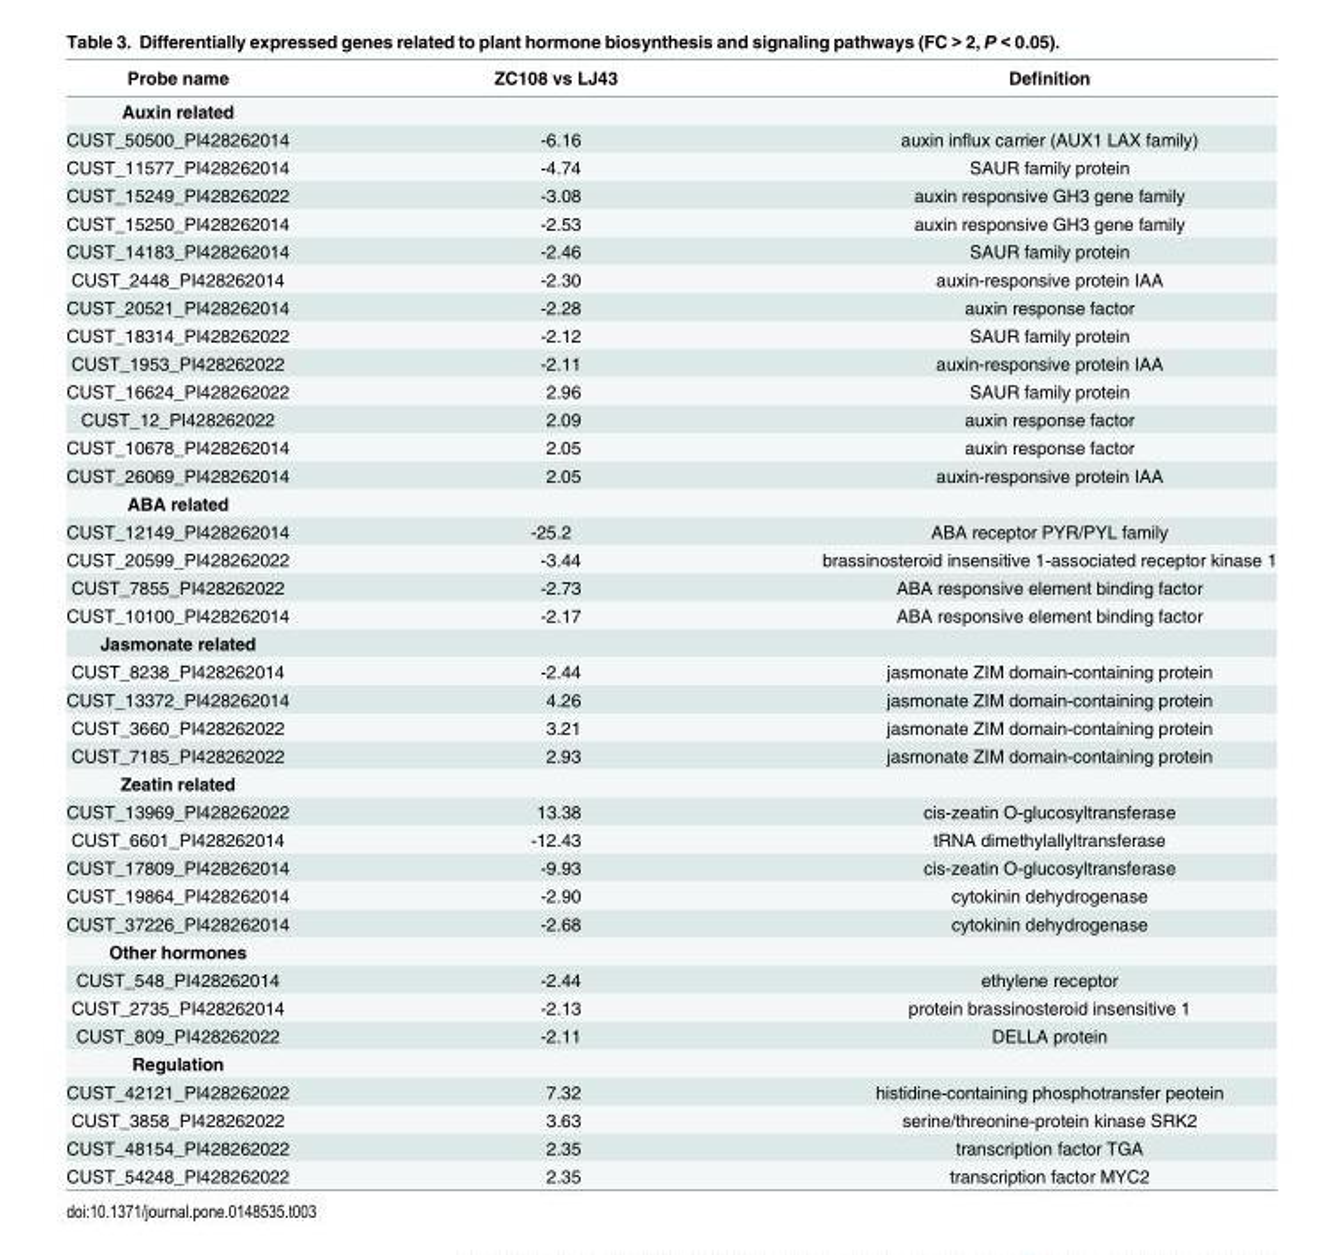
<table><thead><tr><td>Probe name</td><td>ZC108 vs LJ43</td><td>Definition</td></tr></thead><tbody><tr><td colspan="3">Auxin related</td></tr><tr><td>CUST_50500_PI428262014</td><td>-6.16</td><td>auxin influx carrier (AUX1 LAX family)</td></tr><tr><td>CUST_11577_PI428262014</td><td>-4.74</td><td>SAUR family protein</td></tr><tr><td>CUST_15249_PI428262022</td><td>-3.08</td><td>auxin responsive GH3 gene family</td></tr><tr><td>CUST_15250_PI428262014</td><td>-2.53</td><td>auxin responsive GH3 gene family</td></tr><tr><td>CUST_14183_PI428262014</td><td>-2.46</td><td>SAUR family protein</td></tr><tr><td>CUST_2448_PI428262014</td><td>-2.30</td><td>auxin-responsive protein IAA</td></tr><tr><td>CUST_20521_PI428262014</td><td>-2.28</td><td>auxin response factor</td></tr><tr><td>CUST_18314_PI428262022</td><td>-2.12</td><td>SAUR family protein</td></tr><tr><td>CUST_1953_PI428262022</td><td>-2.11</td><td>auxin-responsive protein IAA</td></tr><tr><td>CUST_16624_PI428262022</td><td>2.96</td><td>SAUR family protein</td></tr><tr><td>CUST_12_PI428262022</td><td>2.09</td><td>auxin response factor</td></tr><tr><td>CUST_10678_PI428262014</td><td>2.05</td><td>auxin response factor</td></tr><tr><td>CUST_26069_PI428262014</td><td>2.05</td><td>auxin-responsive protein IAA</td></tr><tr><td colspan="3">ABA related</td></tr><tr><td>CUST_12149_PI428262014</td><td>-25.2</td><td>ABA receptor PYR/PYL family</td></tr><tr><td>CUST_20599_PI428262022</td><td>-3.44</td><td>brassinosteroid insensitive 1-associated receptor kinase 1</td></tr><tr><td>CUST_7855_PI428262022</td><td>-2.73</td><td>ABA responsive element binding factor</td></tr><tr><td>CUST_10100_PI428262014</td><td>-2.17</td><td>ABA responsive element binding factor</td></tr><tr><td colspan="3">Jasmonate related</td></tr><tr><td>CUST_8238_PI428262014</td><td>-2.44</td><td>jasmonate ZIM domain-containing protein</td></tr><tr><td>CUST_13372_PI428262014</td><td>4.26</td><td>jasmonate ZIM domain-containing protein</td></tr><tr><td>CUST_3660_PI428262022</td><td>3.21</td><td>jasmonate ZIM domain-containing protein</td></tr><tr><td>CUST_7185_PI428262022</td><td>2.93</td><td>jasmonate ZIM domain-containing protein</td></tr><tr><td colspan="3">Zeatin related</td></tr><tr><td>CUST_13969_PI428262022</td><td>13.38</td><td>cis-zeatin O-glucosyltransferase</td></tr><tr><td>CUST_6601_PI428262014</td><td>-12.43</td><td>tRNA dimethylallyltransferase</td></tr><tr><td>CUST_17809_PI428262014</td><td>-9.93</td><td>cis-zeatin O-glucosyltransferase</td></tr><tr><td>CUST_19864_PI428262014</td><td>-2.90</td><td>cytokinin dehydrogenase</td></tr><tr><td>CUST_37226_PI428262014</td><td>-2.68</td><td>cytokinin dehydrogenase</td></tr><tr><td colspan="3">Other hormones</td></tr><tr><td>CUST_548_PI428262014</td><td>-2.44</td><td>ethylene receptor</td></tr><tr><td>CUST_2735_PI428262014</td><td>-2.13</td><td>protein brassinosteroid insensitive 1</td></tr><tr><td>CUST_809_PI428262022</td><td>-2.11</td><td>DELLA protein</td></tr><tr><td colspan="3">Regulation</td></tr><tr><td>CUST_42121_PI428262022</td><td>7.32</td><td>histidine-containing phosphotransfer peotein</td></tr><tr><td>CUST_3858_PI428262022</td><td>3.63</td><td>serine/threonine-protein kinase SRK2</td></tr><tr><td>CUST_48154_PI428262022</td><td>2.35</td><td>transcription factor TGA</td></tr><tr><td>CUST_54248_PI428262022</td><td>2.35</td><td>transcription factor MYC2</td></tr></tbody></table>